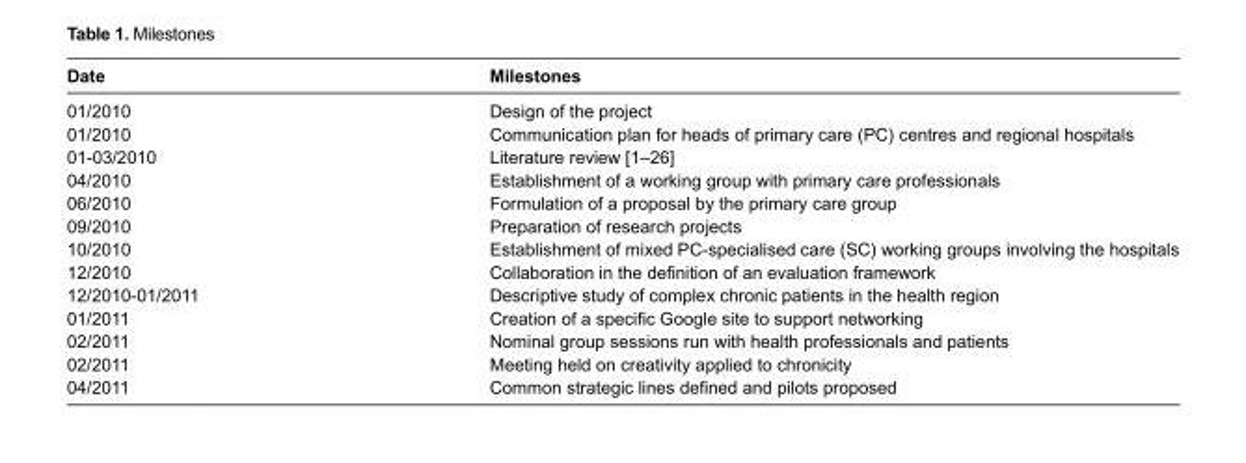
<table><thead><tr><td>Date</td><td>Milestones</td></tr></thead><tbody><tr><td>01/2010</td><td>Design of the project</td></tr><tr><td>01/2010</td><td>Communication plan for heads of primary care (PC) centres and regional hospitals</td></tr><tr><td>01-03/2010</td><td>Literature review [1–26]</td></tr><tr><td>04/2010</td><td>Establishment of a working group with primary care professionals</td></tr><tr><td>06/2010</td><td>Formulation of a proposal by the primary care group</td></tr><tr><td>09/2010</td><td>Preparation of research projects</td></tr><tr><td>10/2010</td><td>Establishment of mixed PC-specialised care (SC) working groups involving the hospitals</td></tr><tr><td>12/2010</td><td>Collaboration in the definition of an evaluation framework</td></tr><tr><td>12/2010-01/2011</td><td>Descriptive study of complex chronic patients in the health region</td></tr><tr><td>01/2011</td><td>Creation of a specific Google site to support networking</td></tr><tr><td>02/2011</td><td>Nominal group sessions run with health professionals and patients</td></tr><tr><td>02/2011</td><td>Meeting held on creativity applied to chronicity</td></tr><tr><td>04/2011</td><td>Common strategic lines defined and pilots proposed</td></tr></tbody></table>